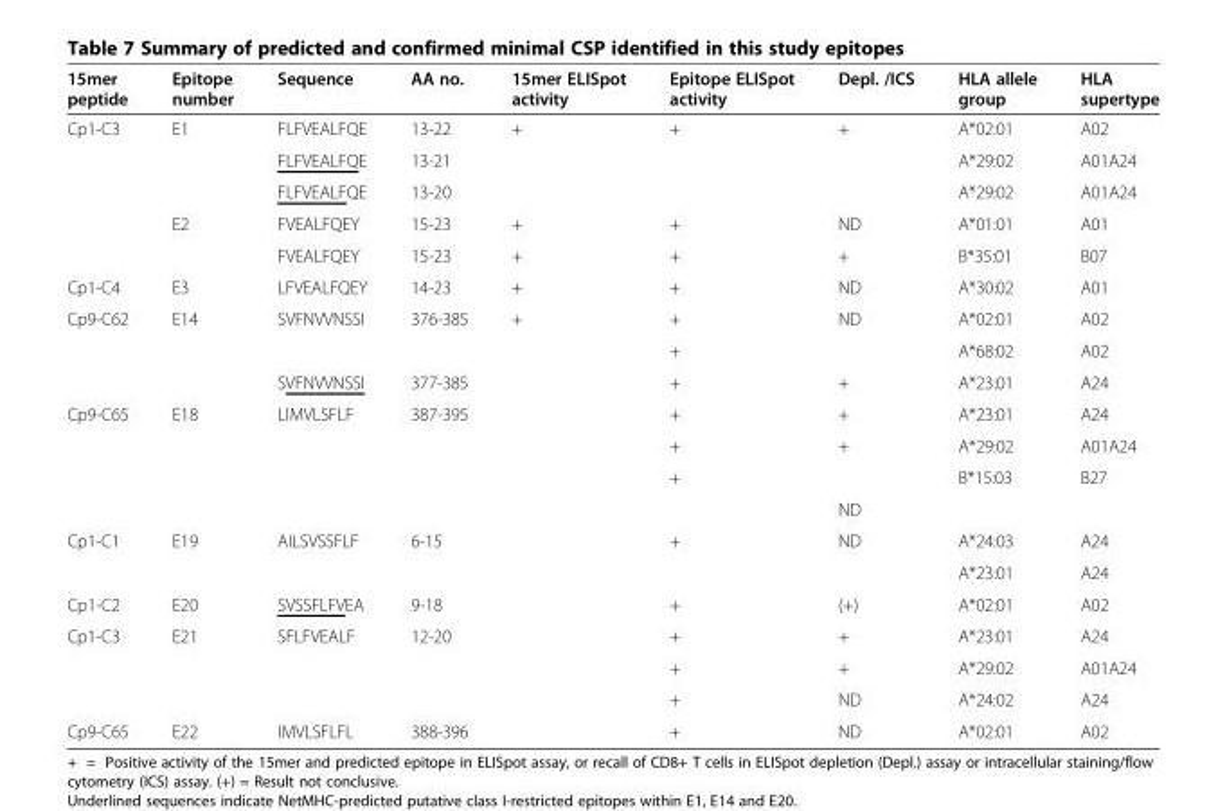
<table><thead><tr><td>15mer peptide</td><td>Epitope number</td><td>Sequence</td><td>AA no.</td><td>15mer ELISpot activity</td><td>Epitope ELISpot activity</td><td>Depl. /ICS</td><td>HLA allele group</td><td>HLA supertype</td></tr></thead><tbody><tr><td rowspan="5">Cp1-C3</td><td>E1</td><td>FLFVEALFQE</td><td>13-22</td><td>+</td><td>+</td><td>+</td><td>A*02:01</td><td>A02</td></tr><tr><td></td><td>FLFVEALFQE</td><td>13-21</td><td></td><td></td><td></td><td>A*29:02</td><td>A01A24</td></tr><tr><td></td><td>FLFVEALFQE</td><td>13-20</td><td></td><td></td><td></td><td>A*29:02</td><td>A01A24</td></tr><tr><td>E2</td><td>FVEALFQEY</td><td>15-23</td><td>+</td><td>+</td><td>ND</td><td>A*01:01</td><td>A01</td></tr><tr><td></td><td>FVEALFQEY</td><td>15-23</td><td>+</td><td>+</td><td>+</td><td>B*35:01</td><td>B07</td></tr><tr><td>Cp1-C4</td><td>E3</td><td>LFVEALFQEY</td><td>14-23</td><td>+</td><td>+</td><td>ND</td><td>A*30:02</td><td>A01</td></tr><tr><td rowspan="3">Cp9-C62</td><td>E14</td><td>SVFNVVNSSI</td><td>376-385</td><td>+</td><td>+</td><td>ND</td><td>A*02:01</td><td>A02</td></tr><tr><td></td><td></td><td></td><td></td><td>+</td><td></td><td>A*68:02</td><td>A02</td></tr><tr><td></td><td>SVFNVVNSSI</td><td>377-385</td><td></td><td>+</td><td>+</td><td>A*23:01</td><td>A24</td></tr><tr><td rowspan="4">Cp9-C65</td><td>E18</td><td>LIMVLSFLF</td><td>387-395</td><td></td><td>+</td><td>+</td><td>A*23:01</td><td>A24</td></tr><tr><td></td><td></td><td></td><td></td><td>+</td><td>+</td><td>A*29:02</td><td>A01A24</td></tr><tr><td></td><td></td><td></td><td></td><td>+</td><td></td><td>B*15:03</td><td>B27</td></tr><tr><td></td><td></td><td></td><td></td><td></td><td>ND</td><td></td><td></td></tr><tr><td rowspan="2">Cp1-C1</td><td>E19</td><td>AILSVSSFLF</td><td>6-15</td><td></td><td>+</td><td>ND</td><td>A*24:03</td><td>A24</td></tr><tr><td></td><td></td><td></td><td></td><td></td><td></td><td>A*23:01</td><td>A24</td></tr><tr><td>Cp1-C2</td><td>E20</td><td>SVSSFLFVEA</td><td>9-18</td><td></td><td>+</td><td>(+)</td><td>A*02:01</td><td>A02</td></tr><tr><td rowspan="3">Cp1-C3</td><td>E21</td><td>SFLFVEALF</td><td>12-20</td><td></td><td>+</td><td>+</td><td>A*23:01</td><td>A24</td></tr><tr><td></td><td></td><td></td><td></td><td>+</td><td>+</td><td>A*29:02</td><td>A01A24</td></tr><tr><td></td><td></td><td></td><td></td><td>+</td><td>ND</td><td>A*24:02</td><td>A24</td></tr><tr><td>Cp9-C65</td><td>E22</td><td>IMVLSFLFL</td><td>388-396</td><td></td><td>+</td><td>ND</td><td>A*02:01</td><td>A02</td></tr></tbody></table>